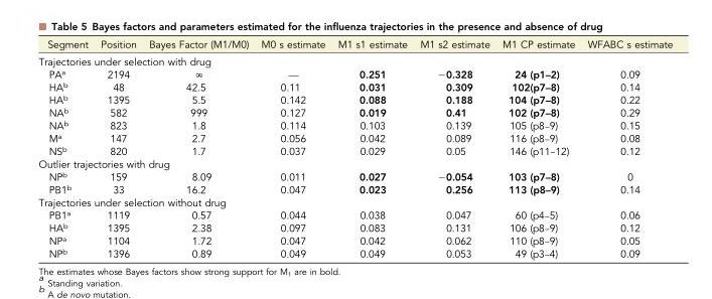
<table><thead><tr><td>Segment</td><td>Position</td><td>Bayes Factor (M1/M0)</td><td>M0 s estimate</td><td>M1 s1 estimate</td><td>M1 s2 estimate</td><td>M1 CP estimate</td><td>WFABC s estimate</td></tr></thead><tbody><tr><td colspan="8">Trajectories under selection with drug</td></tr><tr><td>PA<sup>a</sup></td><td>2194</td><td>∞</td><td>—</td><td>0.251</td><td>−0.328</td><td>24 (p1–2)</td><td>0.09</td></tr><tr><td>HA<sup>b</sup></td><td>48</td><td>42.5</td><td>0.11</td><td>0.031</td><td>0.309</td><td>102(p7–8)</td><td>0.14</td></tr><tr><td>HA<sup>b</sup></td><td>1395</td><td>5.5</td><td>0.142</td><td>0.088</td><td>0.188</td><td>104 (p7–8)</td><td>0.22</td></tr><tr><td>NA<sup>b</sup></td><td>582</td><td>999</td><td>0.127</td><td>0.019</td><td>0.41</td><td>102 (p7–8)</td><td>0.29</td></tr><tr><td>NA<sup>b</sup></td><td>823</td><td>1.8</td><td>0.114</td><td>0.103</td><td>0.139</td><td>105 (p8–9)</td><td>0.15</td></tr><tr><td>M<sup>a</sup></td><td>147</td><td>2.7</td><td>0.056</td><td>0.042</td><td>0.089</td><td>116 (p8–9)</td><td>0.08</td></tr><tr><td>NS<sup>b</sup></td><td>820</td><td>1.7</td><td>0.037</td><td>0.029</td><td>0.05</td><td>146 (p11–12)</td><td>0.12</td></tr><tr><td colspan="8">Outlier trajectories with drug</td></tr><tr><td>NP<sup>b</sup></td><td>159</td><td>8.09</td><td>0.011</td><td>0.027</td><td>−0.054</td><td>103 (p7–8)</td><td>0</td></tr><tr><td>PB1<sup>b</sup></td><td>33</td><td>16.2</td><td>0.047</td><td>0.023</td><td>0.256</td><td>113 (p8–9)</td><td>0.14</td></tr><tr><td colspan="8">Trajectories under selection without drug</td></tr><tr><td>PB1<sup>a</sup></td><td>1119</td><td>0.57</td><td>0.044</td><td>0.038</td><td>0.047</td><td>60 (p4–5)</td><td>0.06</td></tr><tr><td>HA<sup>b</sup></td><td>1395</td><td>2.38</td><td>0.097</td><td>0.083</td><td>0.131</td><td>106 (p8–9)</td><td>0.12</td></tr><tr><td>NP<sup>a</sup></td><td>1104</td><td>1.72</td><td>0.047</td><td>0.042</td><td>0.062</td><td>110 (p8–9)</td><td>0.05</td></tr><tr><td>NP<sup>b</sup></td><td>1396</td><td>0.89</td><td>0.049</td><td>0.049</td><td>0.053</td><td>49 (p3–4)</td><td>0.09</td></tr></tbody></table>